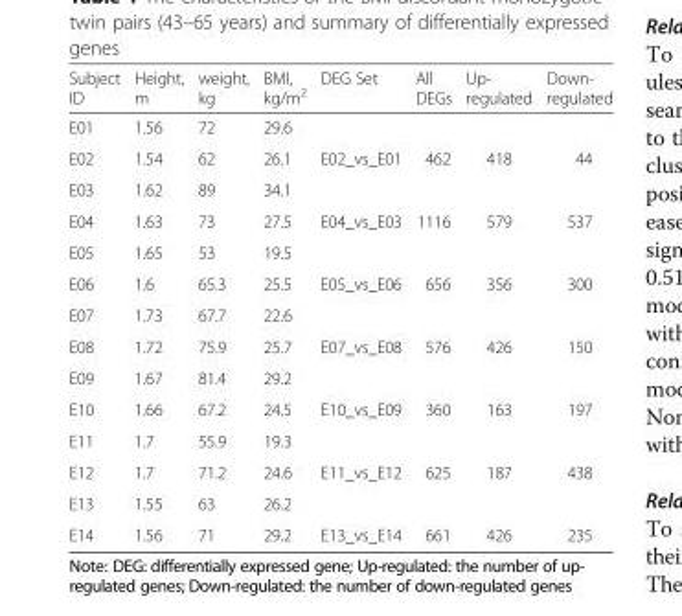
<table><thead><tr><td>Subject ID</td><td>Height, m</td><td>weight, kg</td><td>BMI, kg/m<sup>2</sup></td><td>DEG Set</td><td>All DEGs</td><td>Up- regulated</td><td>Down- regulated</td></tr></thead><tbody><tr><td>E01</td><td>1.56</td><td>72</td><td>29.6</td><td></td><td></td><td></td><td></td></tr><tr><td>E02</td><td>1.54</td><td>62</td><td>26.1</td><td>E02_vs_E01</td><td>462</td><td>418</td><td>44</td></tr><tr><td>E03</td><td>1.62</td><td>89</td><td>34.1</td><td></td><td></td><td></td><td></td></tr><tr><td>E04</td><td>1.63</td><td>73</td><td>27.5</td><td>E04_vs_E03</td><td>1116</td><td>579</td><td>537</td></tr><tr><td>E05</td><td>1.65</td><td>53</td><td>19.5</td><td></td><td></td><td></td><td></td></tr><tr><td>E06</td><td>1.6</td><td>65.3</td><td>25.5</td><td>E05_vs_E06</td><td>656</td><td>356</td><td>300</td></tr><tr><td>E07</td><td>1.73</td><td>67.7</td><td>22.6</td><td></td><td></td><td></td><td></td></tr><tr><td>E08</td><td>1.72</td><td>75.9</td><td>25.7</td><td>E07_vs_E08</td><td>576</td><td>426</td><td>150</td></tr><tr><td>E09</td><td>1.67</td><td>81.4</td><td>29.2</td><td></td><td></td><td></td><td></td></tr><tr><td>E10</td><td>1.66</td><td>67.2</td><td>24.5</td><td>E10_vs_E09</td><td>360</td><td>163</td><td>197</td></tr><tr><td>E11</td><td>1.7</td><td>55.9</td><td>19.3</td><td></td><td></td><td></td><td></td></tr><tr><td>E12</td><td>1.7</td><td>71.2</td><td>24.6</td><td>E11_vs_E12</td><td>625</td><td>187</td><td>438</td></tr><tr><td>E13</td><td>1.55</td><td>63</td><td>26.2</td><td></td><td></td><td></td><td></td></tr><tr><td>E14</td><td>1.56</td><td>71</td><td>29.2</td><td>E13_vs_E14</td><td>661</td><td>426</td><td>235</td></tr></tbody></table>